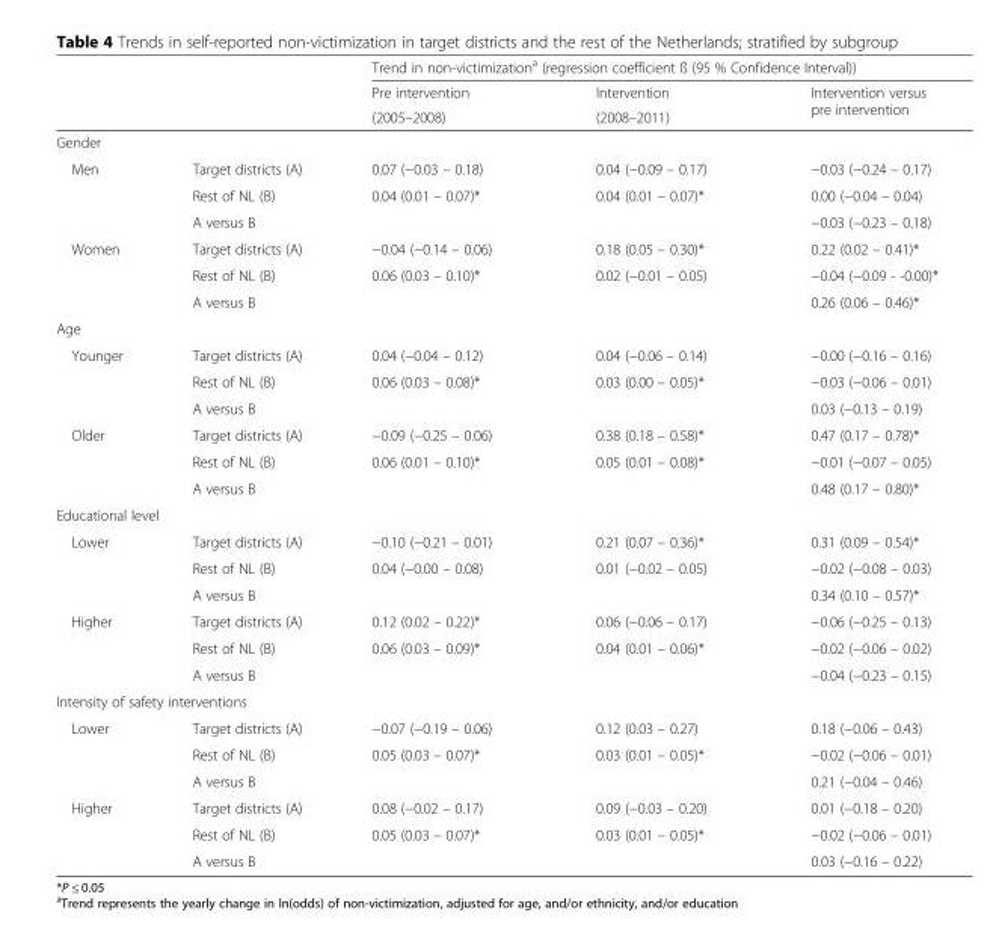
<table><thead><tr><td rowspan="3"></td><td rowspan="3"></td><td colspan="3">Trend in non-victimization<sup>a</sup> (regression coefficient ß (95 % Confidence Interval))</td></tr><tr><td rowspan="2">Pre intervention (2005–2008)</td><td rowspan="2">Intervention (2008–2011)</td><td rowspan="2">Intervention versus pre intervention</td></tr><tr></tr></thead><tbody><tr><td colspan="5">Gender</td></tr><tr><td rowspan="3">Men</td><td>Target districts (A)</td><td>0.07 (−0.03 – 0.18)</td><td>0.04 (−0.09 – 0.17)</td><td>−0.03 (−0.24 – 0.17)</td></tr><tr><td>Rest of NL (B)</td><td>0.04 (0.01 – 0.07)*</td><td>0.04 (0.01 – 0.07)*</td><td>0.00 (−0.04 – 0.04)</td></tr><tr><td>A versus B</td><td></td><td></td><td>−0.03 (−0.23 – 0.18)</td></tr><tr><td rowspan="3">Women</td><td>Target districts (A)</td><td>−0.04 (−0.14 – 0.06)</td><td>0.18 (0.05 – 0.30)*</td><td>0.22 (0.02 – 0.41)*</td></tr><tr><td>Rest of NL (B)</td><td>0.06 (0.03 – 0.10)*</td><td>0.02 (−0.01 – 0.05)</td><td>−0.04 (−0.09 - -0.00)*</td></tr><tr><td>A versus B</td><td></td><td></td><td>0.26 (0.06 – 0.46)*</td></tr><tr><td colspan="5">Age</td></tr><tr><td rowspan="3">Younger</td><td>Target districts (A)</td><td>0.04 (−0.04 – 0.12)</td><td>0.04 (−0.06 – 0.14)</td><td>−0.00 (−0.16 – 0.16)</td></tr><tr><td>Rest of NL (B)</td><td>0.06 (0.03 – 0.08)*</td><td>0.03 (0.00 – 0.05)*</td><td>−0.03 (−0.06 – 0.01)</td></tr><tr><td>A versus B</td><td></td><td></td><td>0.03 (−0.13 – 0.19)</td></tr><tr><td rowspan="3">Older</td><td>Target districts (A)</td><td>−0.09 (−0.25 – 0.06)</td><td>0.38 (0.18 – 0.58)*</td><td>0.47 (0.17 – 0.78)*</td></tr><tr><td>Rest of NL (B)</td><td>0.06 (0.01 – 0.10)*</td><td>0.05 (0.01 – 0.08)*</td><td>−0.01 (−0.07 – 0.05)</td></tr><tr><td>A versus B</td><td></td><td></td><td>0.48 (0.17 – 0.80)*</td></tr><tr><td colspan="5">Educational level</td></tr><tr><td rowspan="3">Lower</td><td>Target districts (A)</td><td>−0.10 (−0.21 – 0.01)</td><td>0.21 (0.07 – 0.36)*</td><td>0.31 (0.09 – 0.54)*</td></tr><tr><td>Rest of NL (B)</td><td>0.04 (−0.00 – 0.08)</td><td>0.01 (−0.02 – 0.05)</td><td>−0.02 (−0.08 – 0.03)</td></tr><tr><td>A versus B</td><td></td><td></td><td>0.34 (0.10 – 0.57)*</td></tr><tr><td rowspan="3">Higher</td><td>Target districts (A)</td><td>0.12 (0.02 – 0.22)*</td><td>0.06 (−0.06 – 0.17)</td><td>−0.06 (−0.25 – 0.13)</td></tr><tr><td>Rest of NL (B)</td><td>0.06 (0.03 – 0.09)*</td><td>0.04 (0.01 – 0.06)*</td><td>−0.02 (−0.06 – 0.02)</td></tr><tr><td>A versus B</td><td></td><td></td><td>−0.04 (−0.23 – 0.15)</td></tr><tr><td colspan="5">Intensity of safety interventions</td></tr><tr><td rowspan="3">Lower</td><td>Target districts (A)</td><td>−0.07 (−0.19 – 0.06)</td><td>0.12 (0.03 – 0.27)</td><td>0.18 (−0.06 – 0.43)</td></tr><tr><td>Rest of NL (B)</td><td>0.05 (0.03 – 0.07)*</td><td>0.03 (0.01 – 0.05)*</td><td>−0.02 (−0.06 – 0.01)</td></tr><tr><td>A versus B</td><td></td><td></td><td>0.21 (−0.04 – 0.46)</td></tr><tr><td rowspan="3">Higher</td><td>Target districts (A)</td><td>0.08 (−0.02 – 0.17)</td><td>0.09 (−0.03 – 0.20)</td><td>0.01 (−0.18 – 0.20)</td></tr><tr><td>Rest of NL (B)</td><td>0.05 (0.03 – 0.07)*</td><td>0.03 (0.01 – 0.05)*</td><td>−0.02 (−0.06 – 0.01)</td></tr><tr><td>A versus B</td><td></td><td></td><td>0.03 (−0.16 – 0.22)</td></tr></tbody></table>